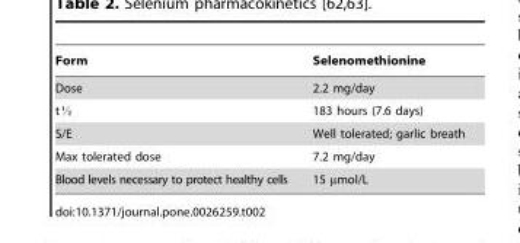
<table><thead><tr><td>Form</td><td>Selenomethionine</td></tr></thead><tbody><tr><td>Dose</td><td>2.2 mg/day</td></tr><tr><td>tK</td><td>183 hours (7.6 days)</td></tr><tr><td>S/E</td><td>Well tolerated; garlic breath</td></tr><tr><td>Max tolerated dose</td><td>7.2 mg/day</td></tr><tr><td>Blood levels necessary to protect healthy cells</td><td>15 µmol/L</td></tr></tbody></table>